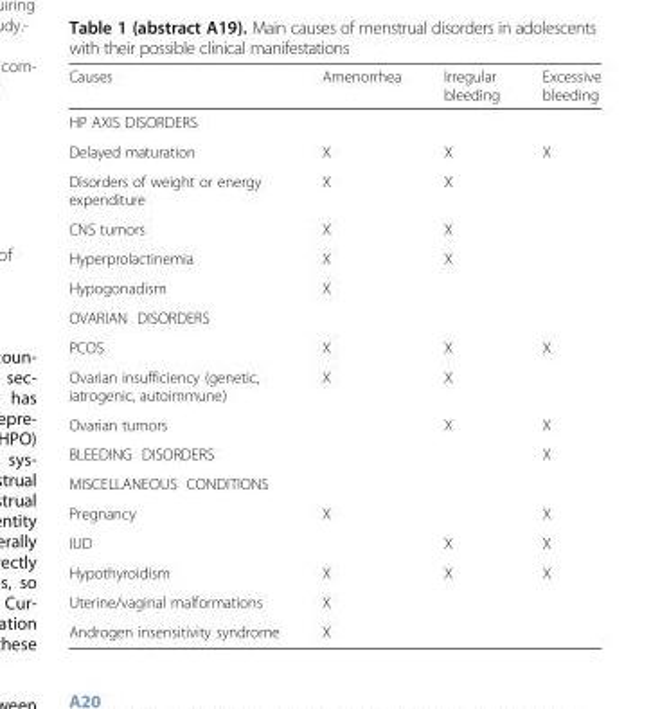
<table><thead><tr><td>Causes</td><td>Amenorrhea</td><td>Irregular bleeding</td><td>Excessive bleeding</td></tr></thead><tbody><tr><td colspan="4">HP AXIS DISORDERS</td></tr><tr><td>Delayed maturation</td><td>X</td><td>X</td><td>X</td></tr><tr><td>Disorders of weight or energy expenditure</td><td>X</td><td>X</td><td></td></tr><tr><td>CNS tumors</td><td>X</td><td>X</td><td></td></tr><tr><td>Hyperprolactinemia</td><td>X</td><td>X</td><td></td></tr><tr><td>Hypogonadism</td><td>X</td><td></td><td></td></tr><tr><td colspan="4">OVARIAN DISORDERS</td></tr><tr><td>PCOS</td><td>X</td><td>X</td><td>X</td></tr><tr><td>Ovarian insufficiency (genetic, iatrogenic, autoimmune)</td><td>X</td><td>X</td><td></td></tr><tr><td>Ovarian tumors</td><td></td><td>X</td><td>X</td></tr><tr><td>BLEEDING DISORDERS</td><td></td><td></td><td>X</td></tr><tr><td colspan="4">MISCELLANEOUS CONDITIONS</td></tr><tr><td>Pregnancy</td><td>X</td><td></td><td>X</td></tr><tr><td>IUD</td><td></td><td>X</td><td>X</td></tr><tr><td>Hypothyroidism</td><td>X</td><td>X</td><td>X</td></tr><tr><td>Uterine/vaginal malformations</td><td>X</td><td></td><td></td></tr><tr><td>Androgen insensitivity syndrome</td><td>X</td><td></td><td></td></tr></tbody></table>